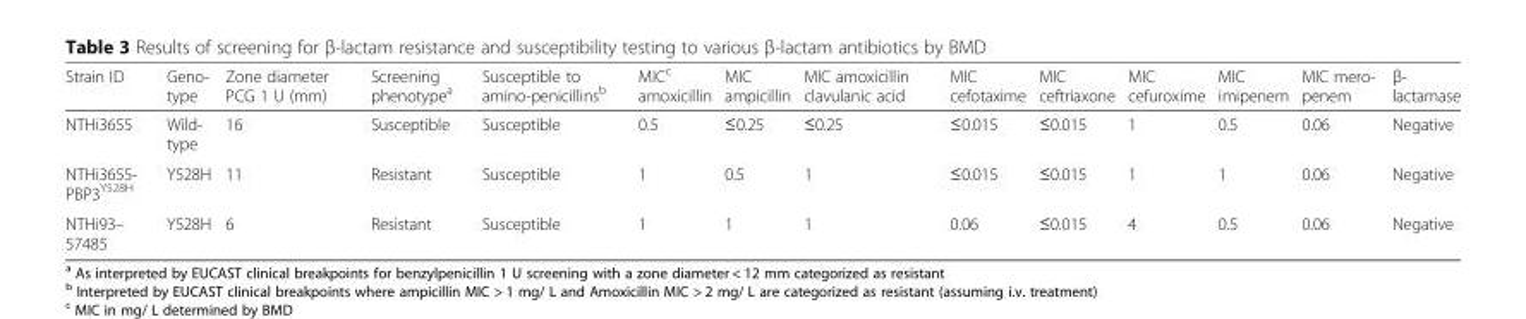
<table><thead><tr><td>Strain ID</td><td>Geno- type</td><td>Zone diameter PCG 1 U (mm)</td><td>Screening phenotype<sup>a</sup></td><td>Susceptible to amino-penicillins<sup>b</sup></td><td>MIC<sup>c</sup> amoxicillin</td><td>MIC ampicillin</td><td>MIC amoxicillin clavulanic acid</td><td>MIC cefotaxime</td><td>MIC ceftriaxone</td><td>MIC cefuroxime</td><td>MIC imipenem</td><td>MIC mero- penem</td><td>β- lactamase</td></tr></thead><tbody><tr><td>NTHi3655</td><td>Wild- type</td><td>16</td><td>Susceptible</td><td>Susceptible</td><td>0.5</td><td>≤0.25</td><td>≤0.25</td><td>≤0.015</td><td>≤0.015</td><td>1</td><td>0.5</td><td>0.06</td><td>Negative</td></tr><tr><td>NTHi3655- PBP3<sup>Y528H</sup></td><td>Y528H</td><td>11</td><td>Resistant</td><td>Susceptible</td><td>1</td><td>0.5</td><td>1</td><td>≤0.015</td><td>≤0.015</td><td>1</td><td>1</td><td>0.06</td><td>Negative</td></tr><tr><td>NTHi93– 57485</td><td>Y528H</td><td>6</td><td>Resistant</td><td>Susceptible</td><td>1</td><td>1</td><td>1</td><td>0.06</td><td>≤0.015</td><td>4</td><td>0.5</td><td>0.06</td><td>Negative</td></tr></tbody></table>